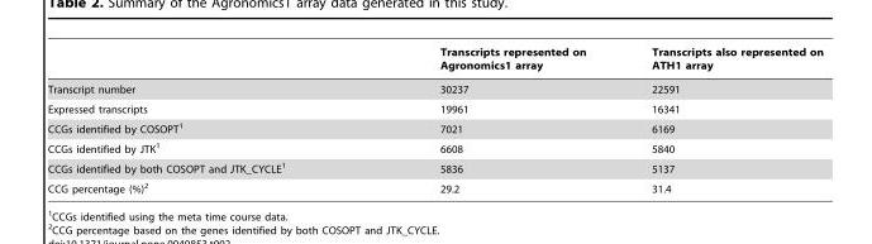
<table><thead><tr><td></td><td>Transcripts represented on Agronomics1 array</td><td>Transcripts also represented on ATH1 array</td></tr></thead><tbody><tr><td>Transcript number</td><td>30237</td><td>22591</td></tr><tr><td>Expressed transcripts</td><td>19961</td><td>16341</td></tr><tr><td>CCGs identified by COSOPT<sup>1</sup></td><td>7021</td><td>6169</td></tr><tr><td>CCGs identified by JTK<sup>1</sup></td><td>6608</td><td>5840</td></tr><tr><td>CCGs identified by both COSOPT and JTK_CYCLE<sup>1</sup></td><td>5836</td><td>5137</td></tr><tr><td>CCG percentage (%)<sup>2</sup></td><td>29.2</td><td>31.4</td></tr></tbody></table>